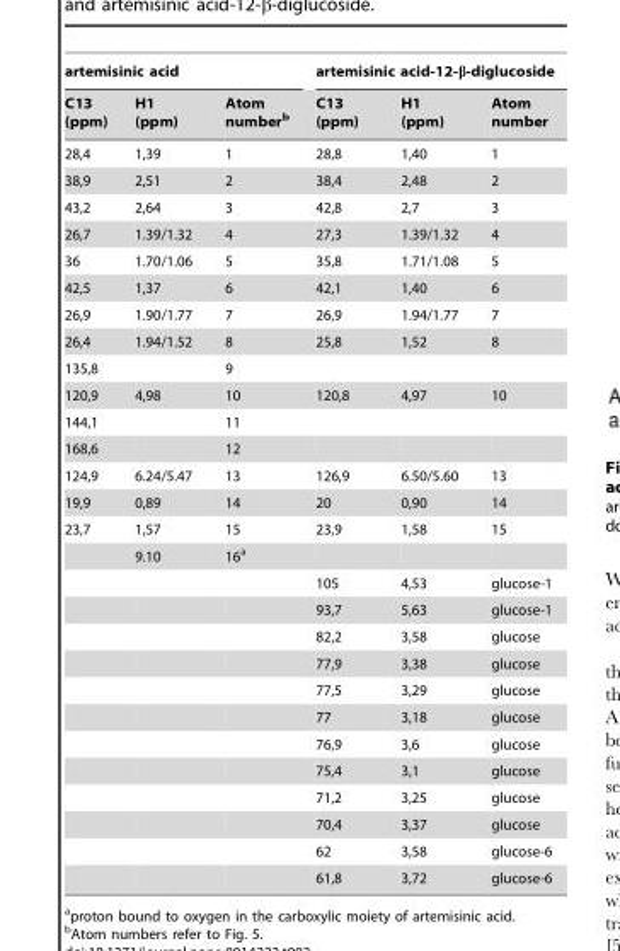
<table><thead><tr><td colspan="3">artemisinic acid</td><td colspan="3">artemisinic acid-12-β-diglucoside</td></tr><tr><td>C13 (ppm)</td><td>H1 (ppm)</td><td>Atom number<sup>b</sup></td><td>C13 (ppm)</td><td>H1 (ppm)</td><td>Atom number</td></tr></thead><tbody><tr><td>28,4</td><td>1,39</td><td>1</td><td>28,8</td><td>1,40</td><td>1</td></tr><tr><td>38,9</td><td>2,51</td><td>2</td><td>38,4</td><td>2,48</td><td>2</td></tr><tr><td>43,2</td><td>2,64</td><td>3</td><td>42,8</td><td>2,7</td><td>3</td></tr><tr><td>26,7</td><td>1.39/1.32</td><td>4</td><td>27,3</td><td>1.39/1.32</td><td>4</td></tr><tr><td>36</td><td>1.70/1.06</td><td>5</td><td>35,8</td><td>1.71/1.08</td><td>5</td></tr><tr><td>42,5</td><td>1,37</td><td>6</td><td>42,1</td><td>1,40</td><td>6</td></tr><tr><td>26,9</td><td>1.90/1.77</td><td>7</td><td>26,9</td><td>1.94/1.77</td><td>7</td></tr><tr><td>26,4</td><td>1.94/1.52</td><td>8</td><td>25,8</td><td>1,52</td><td>8</td></tr><tr><td>135,8</td><td></td><td>9</td><td></td><td></td><td></td></tr><tr><td>120,9</td><td>4,98</td><td>10</td><td>120,8</td><td>4,97</td><td>10</td></tr><tr><td>144,1</td><td></td><td>11</td><td></td><td></td><td></td></tr><tr><td>168,6</td><td></td><td>12</td><td></td><td></td><td></td></tr><tr><td>124,9</td><td>6.24/5.47</td><td>13</td><td>126,9</td><td>6.50/5.60</td><td>13</td></tr><tr><td>19,9</td><td>0,89</td><td>14</td><td>20</td><td>0,90</td><td>14</td></tr><tr><td rowspan="14">23,7</td><td>1,57</td><td>15</td><td>23,9</td><td>1,58</td><td>15</td></tr><tr><td>9.10</td><td>16<sup>a</sup></td><td></td><td></td><td></td></tr><tr><td></td><td></td><td>105</td><td>4,53</td><td>glucose-1</td></tr><tr><td></td><td></td><td>93,7</td><td>5,63</td><td>glucose-1</td></tr><tr><td></td><td></td><td>82,2</td><td>3,58</td><td>glucose</td></tr><tr><td></td><td></td><td>77,9</td><td>3,38</td><td>glucose</td></tr><tr><td></td><td></td><td>77,5</td><td>3,29</td><td>glucose</td></tr><tr><td></td><td></td><td>77</td><td>3,18</td><td>glucose</td></tr><tr><td></td><td></td><td>76,9</td><td>3,6</td><td>glucose</td></tr><tr><td></td><td></td><td>75,4</td><td>3,1</td><td>glucose</td></tr><tr><td></td><td></td><td>71,2</td><td>3,25</td><td>glucose</td></tr><tr><td></td><td></td><td>70,4</td><td>3,37</td><td>glucose</td></tr><tr><td></td><td></td><td>62</td><td>3,58</td><td>glucose-6</td></tr><tr><td></td><td></td><td>61,8</td><td>3,72</td><td>glucose-6</td></tr></tbody></table>